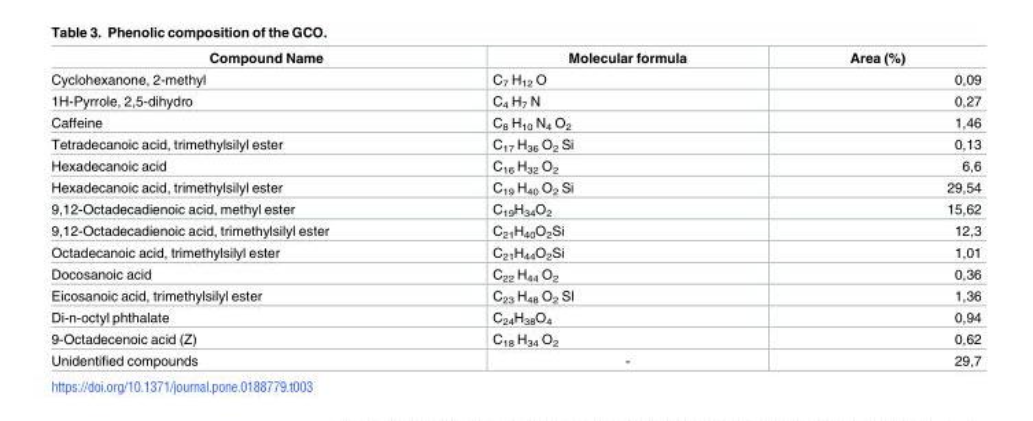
<table><thead><tr><td>Compound Name</td><td>Molecular formula</td><td>Area (%)</td></tr></thead><tbody><tr><td>Cyclohexanone, 2-methyl</td><td>C<sub>7</sub> H<sub>12</sub> O</td><td>0,09</td></tr><tr><td>1H-Pyrrole, 2,5-dihydro</td><td>C<sub>4</sub> H<sub>7</sub> N</td><td>0,27</td></tr><tr><td>Caffeine</td><td>C<sub>8</sub> H<sub>10</sub> N<sub>4</sub> O<sub>2</sub></td><td>1,46</td></tr><tr><td>Tetradecanoic acid, trimethylsilyl ester</td><td>C<sub>17</sub> H<sub>36</sub> O<sub>2</sub> Si</td><td>0,13</td></tr><tr><td>Hexadecanoic acid</td><td>C<sub>16</sub> H<sub>32</sub> O<sub>2</sub></td><td>6,6</td></tr><tr><td>Hexadecanoic acid, trimethylsilyl ester</td><td>C<sub>19</sub> H<sub>40</sub> O<sub>2</sub> Si</td><td>29,54</td></tr><tr><td>9,12-Octadecadienoic acid, methyl ester</td><td>C<sub>19</sub>H<sub>34</sub>O<sub>2</sub></td><td>15,62</td></tr><tr><td>9,12-Octadecadienoic acid, trimethylsilyl ester</td><td>C<sub>21</sub>H<sub>40</sub>O<sub>2</sub>Si</td><td>12,3</td></tr><tr><td>Octadecanoic acid, trimethylsilyl ester</td><td>C<sub>21</sub>H<sub>44</sub>O<sub>2</sub>Si</td><td>1,01</td></tr><tr><td>Docosanoic acid</td><td>C<sub>22</sub> H<sub>44</sub> O<sub>2</sub></td><td>0,36</td></tr><tr><td>Eicosanoic acid, trimethylsilyl ester</td><td>C<sub>23</sub> H<sub>48</sub> O<sub>2</sub> SI</td><td>1,36</td></tr><tr><td>Di-n-octyl phthalate</td><td>C<sub>24</sub>H<sub>38</sub>O<sub>4</sub></td><td>0,94</td></tr><tr><td>9-Octadecenoic acid (Z)</td><td>C<sub>18</sub> H<sub>34</sub> O<sub>2</sub></td><td>0,62</td></tr><tr><td>Unidentified compounds</td><td>-</td><td>29,7</td></tr></tbody></table>